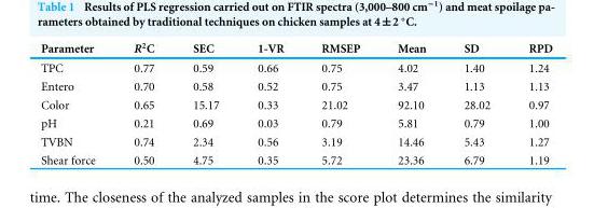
<table><thead><tr><td>Parameter</td><td>R<sup>2</sup>C</td><td>SEC</td><td>1-VR</td><td>RMSEP</td><td>Mean</td><td>SD</td><td>RPD</td></tr></thead><tbody><tr><td>TPC</td><td>0.77</td><td>0.59</td><td>0.66</td><td>0.75</td><td>4.02</td><td>1.40</td><td>1.24</td></tr><tr><td>Entero</td><td>0.70</td><td>0.58</td><td>0.52</td><td>0.75</td><td>3.47</td><td>1.13</td><td>1.13</td></tr><tr><td>Color</td><td>0.65</td><td>15.17</td><td>0.33</td><td>21.02</td><td>92.10</td><td>28.02</td><td>0.97</td></tr><tr><td>pH</td><td>0.21</td><td>0.69</td><td>0.03</td><td>0.79</td><td>5.81</td><td>0.79</td><td>1.00</td></tr><tr><td>TVBN</td><td>0.74</td><td>2.34</td><td>0.56</td><td>3.19</td><td>14.46</td><td>5.43</td><td>1.27</td></tr><tr><td>Shear force</td><td>0.50</td><td>4.75</td><td>0.35</td><td>5.72</td><td>23.36</td><td>6.79</td><td>1.19</td></tr></tbody></table>